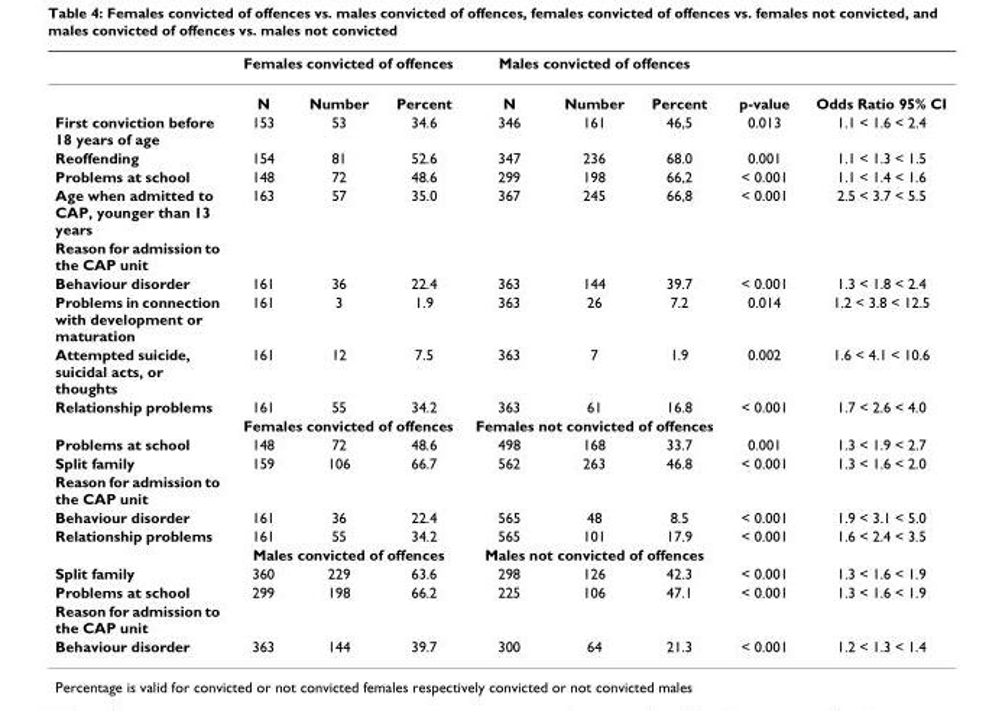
<table><thead><tr><td rowspan="2"></td><td colspan="3">Females convicted of offences</td><td colspan="3">Males convicted of offences</td><td rowspan="2">p-value</td><td rowspan="2">Odds Ratio 95% CI</td></tr><tr><td>N</td><td>Number</td><td>Percent</td><td>N</td><td>Number</td><td>Percent</td></tr></thead><tbody><tr><td>First conviction before 18 years of age</td><td>153</td><td>53</td><td>34.6</td><td>346</td><td>161</td><td>46,5</td><td>0.013</td><td>1.1 &lt; 1.6 &lt; 2.4</td></tr><tr><td>Reoffending</td><td>154</td><td>81</td><td>52.6</td><td>347</td><td>236</td><td>68.0</td><td>0.001</td><td>1.1 &lt; 1.3 &lt; 1.5</td></tr><tr><td>Problems at school</td><td>148</td><td>72</td><td>48.6</td><td>299</td><td>198</td><td>66,2</td><td>&lt; 0.001</td><td>1.1 &lt; 1.4 &lt; 1.6</td></tr><tr><td>Age when admitted to CAP, younger than 13 years</td><td>163</td><td>57</td><td>35.0</td><td>367</td><td>245</td><td>66,8</td><td>&lt; 0.001</td><td>2.5 &lt; 3.7 &lt; 5.5</td></tr><tr><td colspan="9">Reason for admission to the CAP unit</td></tr><tr><td>Behaviour disorder</td><td>161</td><td>36</td><td>22.4</td><td>363</td><td>144</td><td>39.7</td><td>&lt; 0.001</td><td>1.3 &lt; 1.8 &lt; 2.4</td></tr><tr><td>Problems in connection with development or maturation</td><td>161</td><td>3</td><td>1.9</td><td>363</td><td>26</td><td>7.2</td><td>0.014</td><td>1.2 &lt; 3.8 &lt; 12.5</td></tr><tr><td>Attempted suicide, suicidal acts, or thoughts</td><td>161</td><td>12</td><td>7.5</td><td>363</td><td>7</td><td>1.9</td><td>0.002</td><td>1.6 &lt; 4.1 &lt; 10.6</td></tr><tr><td rowspan="2">Relationship problems</td><td>161</td><td>55</td><td>34.2</td><td>363</td><td>61</td><td>16.8</td><td>&lt; 0.001</td><td>1.7 &lt; 2.6 &lt; 4.0</td></tr><tr><td colspan="3">Females convicted of offences</td><td colspan="3">Females not convicted of offences</td><td></td><td></td></tr><tr><td>Problems at school</td><td>148</td><td>72</td><td>48.6</td><td>498</td><td>168</td><td>33.7</td><td>0.001</td><td>1.3 &lt; 1.9 &lt; 2.7</td></tr><tr><td>Split family</td><td>159</td><td>106</td><td>66.7</td><td>562</td><td>263</td><td>46.8</td><td>&lt; 0.001</td><td>1.3 &lt; 1.6 &lt; 2.0</td></tr><tr><td colspan="9">Reason for admission to the CAP unit</td></tr><tr><td>Behaviour disorder</td><td>161</td><td>36</td><td>22.4</td><td>565</td><td>48</td><td>8.5</td><td>&lt; 0.001</td><td>1.9 &lt; 3.1 &lt; 5.0</td></tr><tr><td rowspan="2">Relationship problems</td><td>161</td><td>55</td><td>34.2</td><td>565</td><td>101</td><td>17.9</td><td>&lt; 0.001</td><td>1.6 &lt; 2.4 &lt; 3.5</td></tr><tr><td colspan="3">Males convicted of offences</td><td colspan="3">Males not convicted of offences</td><td></td><td></td></tr><tr><td>Split family</td><td>360</td><td>229</td><td>63.6</td><td>298</td><td>126</td><td>42.3</td><td>&lt; 0.001</td><td>1.3 &lt; 1.6 &lt; 1.9</td></tr><tr><td>Problems at school</td><td>299</td><td>198</td><td>66.2</td><td>225</td><td>106</td><td>47.1</td><td>&lt; 0.001</td><td>1.3 &lt; 1.6 &lt; 1.9</td></tr><tr><td colspan="9">Reason for admission to the CAP unit</td></tr><tr><td>Behaviour disorder</td><td>363</td><td>144</td><td>39.7</td><td>300</td><td>64</td><td>21.3</td><td>&lt; 0.001</td><td>1.2 &lt; 1.3 &lt; 1.4</td></tr></tbody></table>